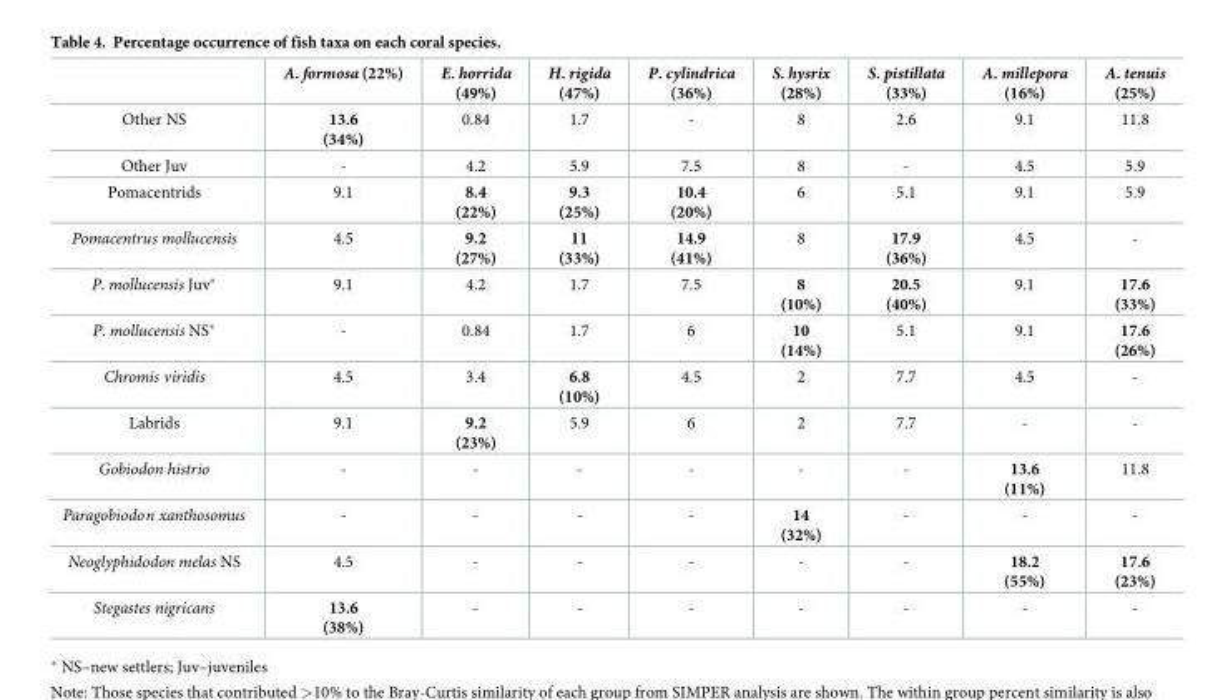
<table><thead><tr><td></td><td>A. formosa (22%)</td><td>E. horrida (49%)</td><td>H. rigida (47%)</td><td>P. cylindrica (36%)</td><td>S. hysrix (28%)</td><td>S. pistillata (33%)</td><td>A. millepora (16%)</td><td>A. tenuis (25%)</td></tr></thead><tbody><tr><td>Other NS</td><td>13.6 (34%)</td><td>0.84</td><td>1.7</td><td>-</td><td>8</td><td>2.6</td><td>9.1</td><td>11.8</td></tr><tr><td>Other Juv</td><td>-</td><td>4.2</td><td>5.9</td><td>7.5</td><td>8</td><td>-</td><td>4.5</td><td>5.9</td></tr><tr><td>Pomacentrids</td><td>9.1</td><td>8.4 (22%)</td><td>9.3 (25%)</td><td>10.4 (20%)</td><td>6</td><td>5.1</td><td>9.1</td><td>5.9</td></tr><tr><td>Pomacentrus mollucensis</td><td>4.5</td><td>9.2 (27%)</td><td>11 (33%)</td><td>14.9 (41%)</td><td>8</td><td>17.9 (36%)</td><td>4.5</td><td>-</td></tr><tr><td>P. mollucensis Juv*</td><td>9.1</td><td>4.2</td><td>1.7</td><td>7.5</td><td>8 (10%)</td><td>20.5 (40%)</td><td>9.1</td><td>17.6 (33%)</td></tr><tr><td>P. mollucensis NS*</td><td>-</td><td>0.84</td><td>1.7</td><td>6</td><td>10 (14%)</td><td>5.1</td><td>9.1</td><td>17.6 (26%)</td></tr><tr><td>Chromis viridis</td><td>4.5</td><td>3.4</td><td>6.8 (10%)</td><td>4.5</td><td>2</td><td>7.7</td><td>4.5</td><td>-</td></tr><tr><td>Labrids</td><td>9.1</td><td>9.2 (23%)</td><td>5.9</td><td>6</td><td>2</td><td>7.7</td><td>-</td><td>-</td></tr><tr><td>Gobiodon histrio</td><td>-</td><td>-</td><td>-</td><td>-</td><td>-</td><td>-</td><td>13.6 (11%)</td><td>11.8</td></tr><tr><td>Paragobiodon xanthosomus</td><td>-</td><td>-</td><td>-</td><td>-</td><td>14 (32%)</td><td>-</td><td>-</td><td>-</td></tr><tr><td>Neoglyphidodon melas NS</td><td>4.5</td><td>-</td><td>-</td><td>-</td><td>-</td><td>-</td><td>18.2 (55%)</td><td>17.6 (23%)</td></tr><tr><td>Stegastes nigricans</td><td>13.6 (38%)</td><td>-</td><td>-</td><td>-</td><td>-</td><td>-</td><td>-</td><td>-</td></tr></tbody></table>